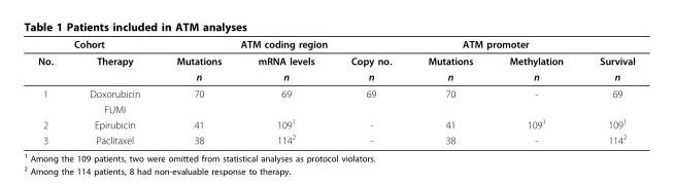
<table><thead><tr><td colspan="2">Cohort</td><td colspan="3">ATM coding region</td><td colspan="2">ATM promoter</td><td rowspan="2">Survival</td></tr><tr><td>No.</td><td>Therapy</td><td>Mutations</td><td>mRNA levels</td><td>Copy no.</td><td>Mutations</td><td>Methylation</td></tr></thead><tbody><tr><td></td><td></td><td>n</td><td>n</td><td>n</td><td>n</td><td>n</td><td>n</td></tr><tr><td rowspan="2">1</td><td>Doxorubicin</td><td>70</td><td>69</td><td>69</td><td>70</td><td>-</td><td>69</td></tr><tr><td>FUMI</td><td></td><td></td><td></td><td></td><td></td><td></td></tr><tr><td>2</td><td>Epirubicin</td><td>41</td><td>109<sup>1</sup></td><td>-</td><td>41</td><td>109<sup>1</sup></td><td>109<sup>1</sup></td></tr><tr><td>3</td><td>Paclitaxel</td><td>38</td><td>114<sup>2</sup></td><td>-</td><td>38</td><td>-</td><td>114<sup>2</sup></td></tr></tbody></table>